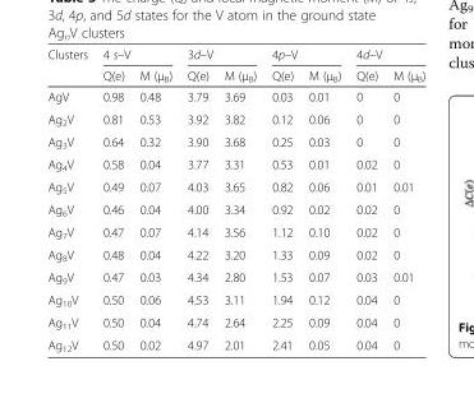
<table><thead><tr><td rowspan="2">Clusters</td><td colspan="2">4 s–V</td><td colspan="2">3d–V</td><td colspan="2">4p–V</td><td colspan="2">4d–V</td></tr><tr><td>Q(e)</td><td>M (μ<sub>B</sub>)</td><td>Q(e)</td><td>M (μ<sub>B</sub>)</td><td>Q(e)</td><td>M (μ<sub>B</sub>)</td><td>Q(e)</td><td>M (μ<sub>B</sub>)</td></tr></thead><tbody><tr><td>AgV</td><td>0.98</td><td>0.48</td><td>3.79</td><td>3.69</td><td>0.03</td><td>0.01</td><td>0</td><td>0</td></tr><tr><td>Ag<sub>2</sub>V</td><td>0.81</td><td>0.53</td><td>3.92</td><td>3.82</td><td>0.12</td><td>0.06</td><td>0</td><td>0</td></tr><tr><td>Ag<sub>3</sub>V</td><td>0.64</td><td>0.32</td><td>3.90</td><td>3.68</td><td>0.25</td><td>0.03</td><td>0</td><td>0</td></tr><tr><td>Ag<sub>4</sub>V</td><td>0.58</td><td>0.04</td><td>3.77</td><td>3.31</td><td>0.53</td><td>0.01</td><td>0.02</td><td>0</td></tr><tr><td>Ag<sub>5</sub>V</td><td>0.49</td><td>0.07</td><td>4.03</td><td>3.65</td><td>0.82</td><td>0.06</td><td>0.01</td><td>0.01</td></tr><tr><td>Ag<sub>6</sub>V</td><td>0.46</td><td>0.04</td><td>4.00</td><td>3.34</td><td>0.92</td><td>0.02</td><td>0.02</td><td>0</td></tr><tr><td>Ag<sub>7</sub>V</td><td>0.47</td><td>0.07</td><td>4.14</td><td>3.56</td><td>1.12</td><td>0.10</td><td>0.02</td><td>0</td></tr><tr><td>Ag<sub>8</sub>V</td><td>0.48</td><td>0.04</td><td>4.22</td><td>3.20</td><td>1.33</td><td>0.09</td><td>0.02</td><td>0</td></tr><tr><td>Ag<sub>9</sub>V</td><td>0.47</td><td>0.03</td><td>4.34</td><td>2.80</td><td>1.53</td><td>0.07</td><td>0.03</td><td>0.01</td></tr><tr><td>Ag<sub>10</sub>V</td><td>0.50</td><td>0.06</td><td>4.53</td><td>3.11</td><td>1.94</td><td>0.12</td><td>0.04</td><td>0</td></tr><tr><td>Ag<sub>11</sub>V</td><td>0.50</td><td>0.04</td><td>4.74</td><td>2.64</td><td>2.25</td><td>0.09</td><td>0.04</td><td>0</td></tr><tr><td>Ag<sub>12</sub>V</td><td>0.50</td><td>0.02</td><td>4.97</td><td>2.01</td><td>2.41</td><td>0.05</td><td>0.04</td><td>0</td></tr></tbody></table>